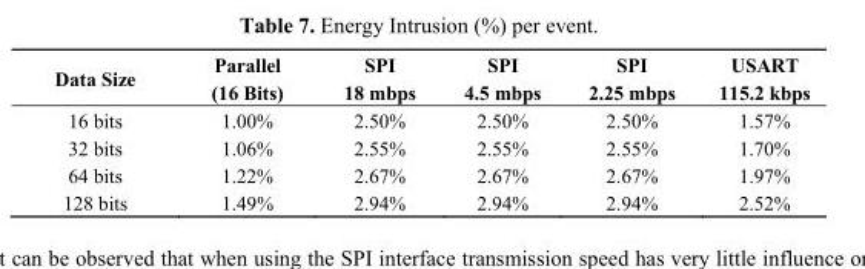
<table><thead><tr><td>Data Size</td><td>Parallel (16 Bits)</td><td>SPI 18 mbps</td><td>SPI 4.5 mbps</td><td>SPI 2.25 mbps</td><td>USART 115.2 kbps</td></tr></thead><tbody><tr><td>16 bits</td><td>1.00%</td><td>2.50%</td><td>2.50%</td><td>2.50%</td><td>1.57%</td></tr><tr><td>32 bits</td><td>1.06%</td><td>2.55%</td><td>2.55%</td><td>2.55%</td><td>1.70%</td></tr><tr><td>64 bits</td><td>1.22%</td><td>2.67%</td><td>2.67%</td><td>2.67%</td><td>1.97%</td></tr><tr><td>128 bits</td><td>1.49%</td><td>2.94%</td><td>2.94%</td><td>2.94%</td><td>2.52%</td></tr></tbody></table>